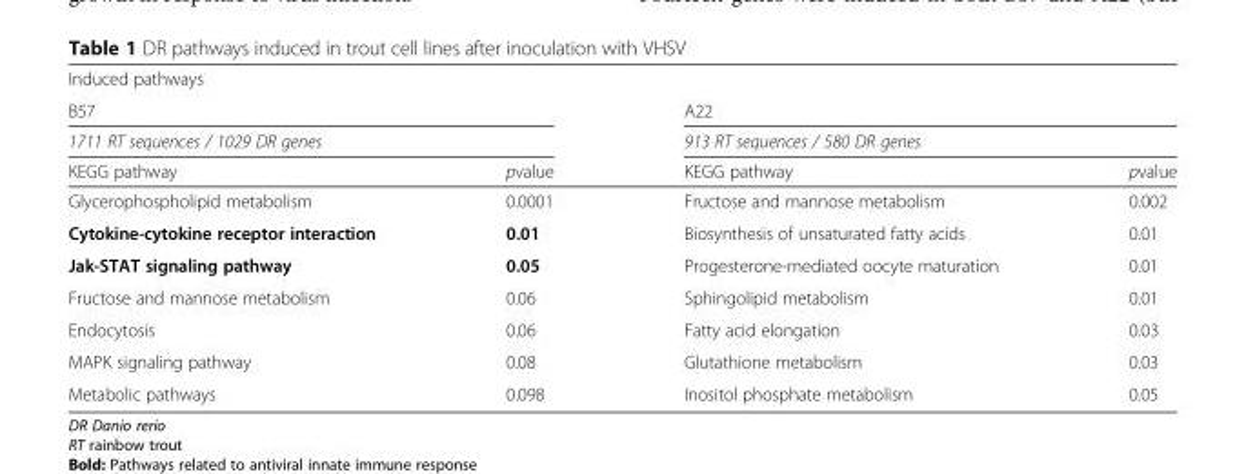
<table><thead><tr><td colspan="4">Induced pathways</td></tr><tr><td rowspan="2" colspan="2">B57 1711 RT sequences / 1029 DR genes</td><td rowspan="2" colspan="2">A22 913 RT sequences / 580 DR genes</td></tr><tr></tr><tr><td>KEGG pathway</td><td>pvalue</td><td>KEGG pathway</td><td>pvalue</td></tr></thead><tbody><tr><td>Glycerophospholipid metabolism</td><td>0.0001</td><td>Fructose and mannose metabolism</td><td>0.002</td></tr><tr><td>Cytokine-cytokine receptor interaction</td><td>0.01</td><td>Biosynthesis of unsaturated fatty acids</td><td>0.01</td></tr><tr><td>Jak-STAT signaling pathway</td><td>0.05</td><td>Progesterone-mediated oocyte maturation</td><td>0.01</td></tr><tr><td>Fructose and mannose metabolism</td><td>0.06</td><td>Sphingolipid metabolism</td><td>0.01</td></tr><tr><td>Endocytosis</td><td>0.06</td><td>Fatty acid elongation</td><td>0.03</td></tr><tr><td>MAPK signaling pathway</td><td>0.08</td><td>Glutathione metabolism</td><td>0.03</td></tr><tr><td>Metabolic pathways</td><td>0.098</td><td>Inositol phosphate metabolism</td><td>0.05</td></tr></tbody></table>